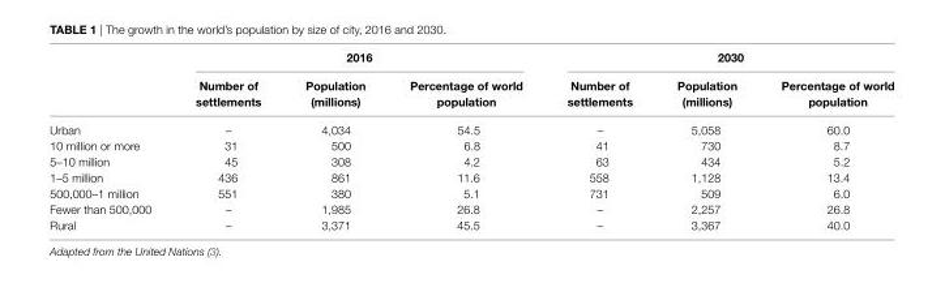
<table><thead><tr><td rowspan="2"></td><td colspan="3">2016</td><td colspan="3">2030</td></tr><tr><td>number of settlements</td><td>population (millions)</td><td>percentage of world population</td><td>number of settlements</td><td>population (millions)</td><td>percentage of world population</td></tr></thead><tbody><tr><td>Urban</td><td>–</td><td>4,034</td><td>54.5</td><td>–</td><td>5,058</td><td>60.0</td></tr><tr><td>10 million or more</td><td>31</td><td>500</td><td>6.8</td><td>41</td><td>730</td><td>8.7</td></tr><tr><td>5–10 million</td><td>45</td><td>308</td><td>4.2</td><td>63</td><td>434</td><td>5.2</td></tr><tr><td>1–5 million</td><td>436</td><td>861</td><td>11.6</td><td>558</td><td>1,128</td><td>13.4</td></tr><tr><td>500,000–1 million</td><td>551</td><td>380</td><td>5.1</td><td>731</td><td>509</td><td>6.0</td></tr><tr><td>Fewer than 500,000</td><td>–</td><td>1,985</td><td>26.8</td><td>–</td><td>2,257</td><td>26.8</td></tr><tr><td>Rural</td><td>–</td><td>3,371</td><td>45.5</td><td>–</td><td>3,367</td><td>40.0</td></tr></tbody></table>